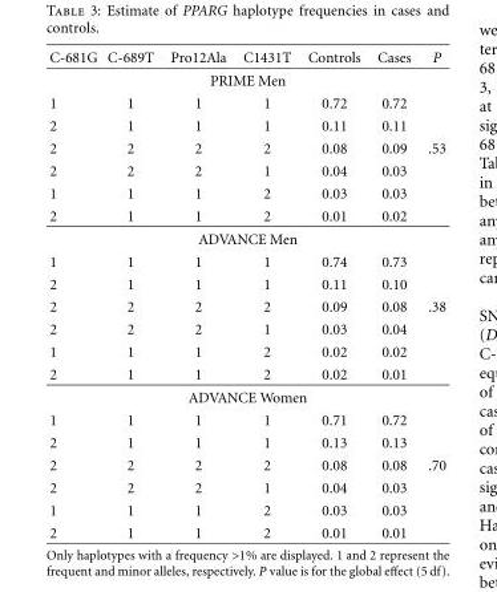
<table><thead><tr><td>C-681G</td><td>C-689T</td><td>Pro12Ala</td><td>C1431T</td><td>Controls</td><td>Cases</td><td>P</td></tr></thead><tbody><tr><td colspan="7">PRIME Men</td></tr><tr><td>1</td><td>1</td><td>1</td><td>1</td><td>0.72</td><td>0.72</td><td></td></tr><tr><td>2</td><td>1</td><td>1</td><td>1</td><td>0.11</td><td>0.11</td><td></td></tr><tr><td>2</td><td>2</td><td>2</td><td>2</td><td>0.08</td><td>0.09</td><td>.53</td></tr><tr><td>2</td><td>2</td><td>2</td><td>1</td><td>0.04</td><td>0.03</td><td></td></tr><tr><td>1</td><td>1</td><td>1</td><td>2</td><td>0.03</td><td>0.03</td><td></td></tr><tr><td>2</td><td>1</td><td>1</td><td>2</td><td>0.01</td><td>0.02</td><td></td></tr><tr><td colspan="7">ADVANCE Men</td></tr><tr><td>1</td><td>1</td><td>1</td><td>1</td><td>0.74</td><td>0.73</td><td></td></tr><tr><td>2</td><td>1</td><td>1</td><td>1</td><td>0.11</td><td>0.10</td><td></td></tr><tr><td>2</td><td>2</td><td>2</td><td>2</td><td>0.09</td><td>0.08</td><td>.38</td></tr><tr><td>2</td><td>2</td><td>2</td><td>1</td><td>0.03</td><td>0.04</td><td></td></tr><tr><td>1</td><td>1</td><td>1</td><td>2</td><td>0.02</td><td>0.02</td><td></td></tr><tr><td>2</td><td>1</td><td>1</td><td>2</td><td>0.02</td><td>0.01</td><td></td></tr><tr><td colspan="7">ADVANCE Women</td></tr><tr><td>1</td><td>1</td><td>1</td><td>1</td><td>0.71</td><td>0.72</td><td></td></tr><tr><td>2</td><td>1</td><td>1</td><td>1</td><td>0.13</td><td>0.13</td><td></td></tr><tr><td>2</td><td>2</td><td>2</td><td>2</td><td>0.08</td><td>0.08</td><td>.70</td></tr><tr><td>2</td><td>2</td><td>2</td><td>1</td><td>0.04</td><td>0.03</td><td></td></tr><tr><td>1</td><td>1</td><td>1</td><td>2</td><td>0.03</td><td>0.03</td><td></td></tr><tr><td>2</td><td>1</td><td>1</td><td>2</td><td>0.01</td><td>0.01</td><td></td></tr></tbody></table>